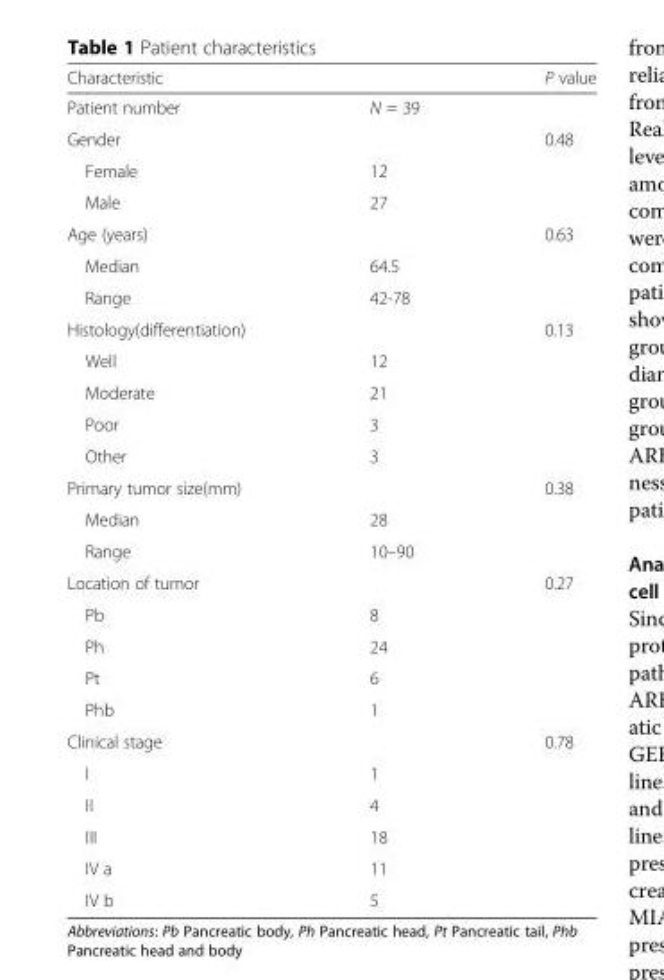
<table><thead><tr><td>Characteristic</td><td></td><td>P value</td></tr></thead><tbody><tr><td>Patient number</td><td>N = 39</td><td></td></tr><tr><td>Gender</td><td></td><td>0.48</td></tr><tr><td>Female</td><td>12</td><td></td></tr><tr><td>Male</td><td>27</td><td></td></tr><tr><td>Age (years)</td><td></td><td>0.63</td></tr><tr><td>Median</td><td>64.5</td><td></td></tr><tr><td>Range</td><td>42-78</td><td></td></tr><tr><td>Histology(differentiation)</td><td></td><td>0.13</td></tr><tr><td>Well</td><td>12</td><td></td></tr><tr><td>Moderate</td><td>21</td><td></td></tr><tr><td>Poor</td><td>3</td><td></td></tr><tr><td>Other</td><td>3</td><td></td></tr><tr><td>Primary tumor size(mm)</td><td></td><td>0.38</td></tr><tr><td>Median</td><td>28</td><td></td></tr><tr><td>Range</td><td>10–90</td><td></td></tr><tr><td>Location of tumor</td><td></td><td>0.27</td></tr><tr><td>Pb</td><td>8</td><td></td></tr><tr><td>Ph</td><td>24</td><td></td></tr><tr><td>Pt</td><td>6</td><td></td></tr><tr><td>Phb</td><td>1</td><td></td></tr><tr><td>Clinical stage</td><td></td><td>0.78</td></tr><tr><td>I</td><td>1</td><td></td></tr><tr><td>II</td><td>4</td><td></td></tr><tr><td>III</td><td>18</td><td></td></tr><tr><td>IV a</td><td>11</td><td></td></tr><tr><td>IV b</td><td>5</td><td></td></tr></tbody></table>